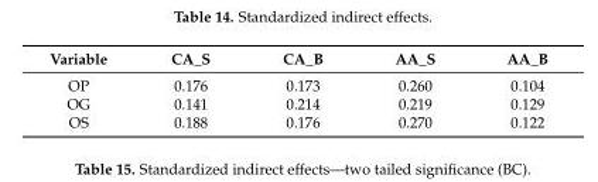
<table><thead><tr><td>Variable</td><td>CA_S</td><td>CA_B</td><td>AA_S</td><td>AA_B</td></tr></thead><tbody><tr><td>OP</td><td>0.176</td><td>0.173</td><td>0.260</td><td>0.104</td></tr><tr><td>OG</td><td>0.141</td><td>0.214</td><td>0.219</td><td>0.129</td></tr><tr><td>OS</td><td>0.188</td><td>0.176</td><td>0.270</td><td>0.122</td></tr></tbody></table>